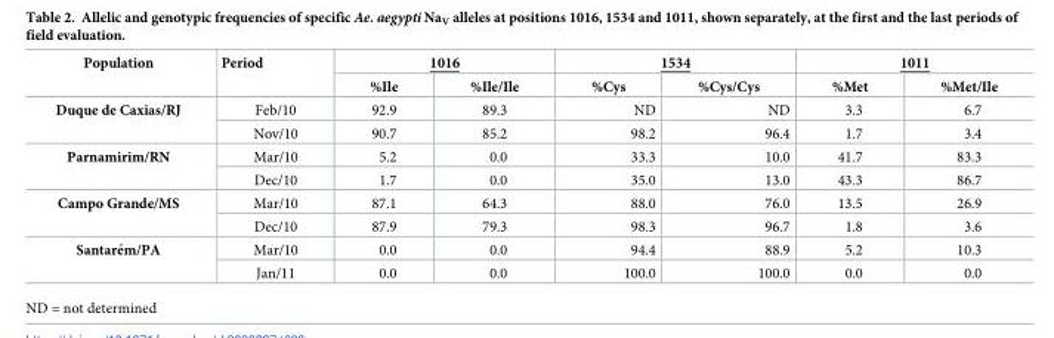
<table><thead><tr><td rowspan="2">Population</td><td rowspan="2">Period</td><td colspan="2">1016</td><td colspan="2">1534</td><td colspan="2">1011</td></tr><tr><td>%Ile</td><td>%Ile/Ile</td><td>%Cys</td><td>%Cys/Cys</td><td>%Met</td><td>%Met/Ile</td></tr></thead><tbody><tr><td rowspan="2">Duque de Caxias/RJ</td><td>Feb/10</td><td>92.9</td><td>89.3</td><td>ND</td><td>ND</td><td>3.3</td><td>6.7</td></tr><tr><td>Nov/10</td><td>90.7</td><td>85.2</td><td>98.2</td><td>96.4</td><td>1.7</td><td>3.4</td></tr><tr><td rowspan="2">Parnamirim/RN</td><td>Mar/10</td><td>5.2</td><td>0.0</td><td>33.3</td><td>10.0</td><td>41.7</td><td>83.3</td></tr><tr><td>Dec/10</td><td>1.7</td><td>0.0</td><td>35.0</td><td>13.0</td><td>43.3</td><td>86.7</td></tr><tr><td rowspan="2">Campo Grande/MS</td><td>Mar/10</td><td>87.1</td><td>64.3</td><td>88.0</td><td>76.0</td><td>13.5</td><td>26.9</td></tr><tr><td>Dec/10</td><td>87.9</td><td>79.3</td><td>98.3</td><td>96.7</td><td>1.8</td><td>3.6</td></tr><tr><td rowspan="2">Santare´m/PA</td><td>Mar/10</td><td>0.0</td><td>0.0</td><td>94.4</td><td>88.9</td><td>5.2</td><td>10.3</td></tr><tr><td>Jan/11</td><td>0.0</td><td>0.0</td><td>100.0</td><td>100.0</td><td>0.0</td><td>0.0</td></tr></tbody></table>